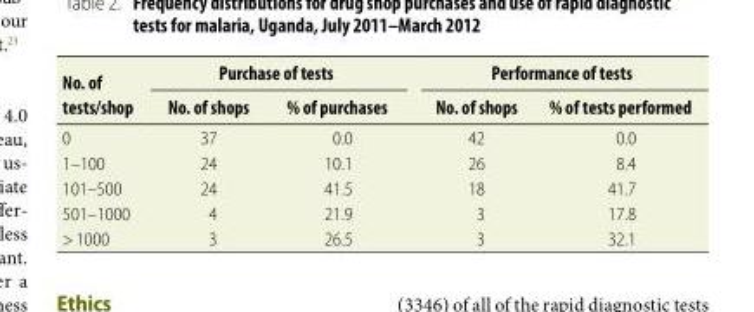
<table><thead><tr><td rowspan="2">No. of tests/shop</td><td colspan="2">Purchase of tests</td><td colspan="2">Performance of tests</td></tr><tr><td>No. of shops</td><td>% of purchases</td><td>No. of shops</td><td>% of tests performed</td></tr></thead><tbody><tr><td>0</td><td>37</td><td>0.0</td><td>42</td><td>0.0</td></tr><tr><td>1–100</td><td>24</td><td>10.1</td><td>26</td><td>8.4</td></tr><tr><td>101–500</td><td>24</td><td>41.5</td><td>18</td><td>41.7</td></tr><tr><td>501–1000</td><td>4</td><td>21.9</td><td>3</td><td>17.8</td></tr><tr><td>&gt; 1000</td><td>3</td><td>26.5</td><td>3</td><td>32.1</td></tr></tbody></table>